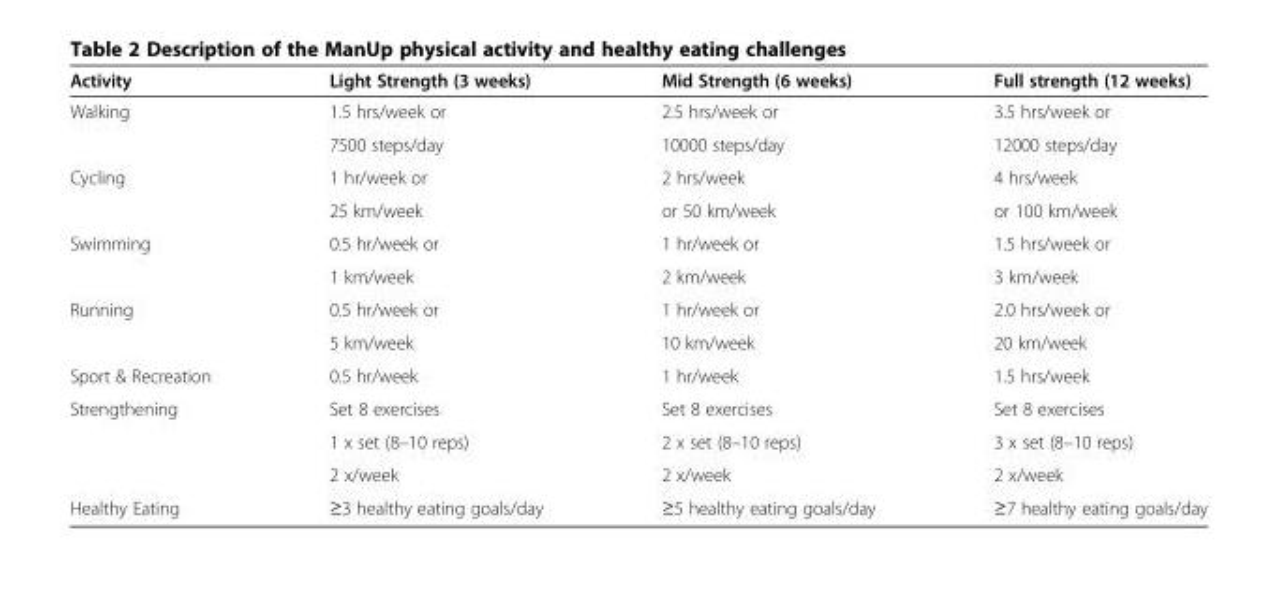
<table><thead><tr><td>Activity</td><td>Light Strength (3 weeks)</td><td>Mid Strength (6 weeks)</td><td>Full strength (12 weeks)</td></tr></thead><tbody><tr><td rowspan="2">Walking</td><td>1.5 hrs/week or</td><td>2.5 hrs/week or</td><td>3.5 hrs/week or</td></tr><tr><td>7500 steps/day</td><td>10000 steps/day</td><td>12000 steps/day</td></tr><tr><td rowspan="2">Cycling</td><td>1 hr/week or</td><td>2 hrs/week</td><td>4 hrs/week</td></tr><tr><td>25 km/week</td><td>or 50 km/week</td><td>or 100 km/week</td></tr><tr><td rowspan="2">Swimming</td><td>0.5 hr/week or</td><td>1 hr/week or</td><td>1.5 hrs/week or</td></tr><tr><td>1 km/week</td><td>2 km/week</td><td>3 km/week</td></tr><tr><td rowspan="2">Running</td><td>0.5 hr/week or</td><td>1 hr/week or</td><td>2.0 hrs/week or</td></tr><tr><td>5 km/week</td><td>10 km/week</td><td>20 km/week</td></tr><tr><td>Sport &amp; Recreation</td><td>0.5 hr/week</td><td>1 hr/week</td><td>1.5 hrs/week</td></tr><tr><td rowspan="3">Strengthening</td><td>Set 8 exercises</td><td>Set 8 exercises</td><td>Set 8 exercises</td></tr><tr><td>1 x set (8–10 reps)</td><td>2 x set (8–10 reps)</td><td>3 x set (8–10 reps)</td></tr><tr><td>2 x/week</td><td>2 x/week</td><td>2 x/week</td></tr><tr><td>Healthy Eating</td><td>≥3 healthy eating goals/day</td><td>≥5 healthy eating goals/day</td><td>≥7 healthy eating goals/day</td></tr></tbody></table>